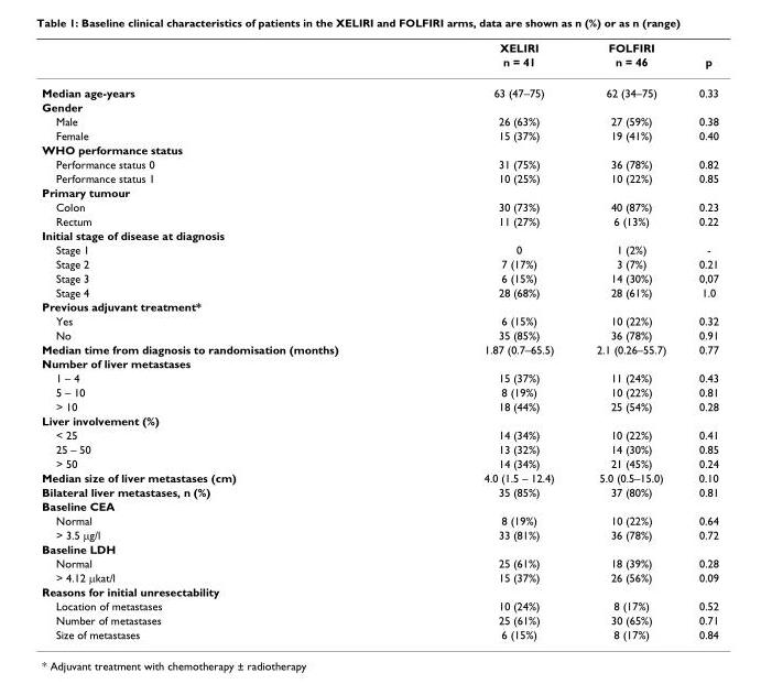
<table><thead><tr><td rowspan="2"></td><td rowspan="2">XELIRI n = 41</td><td rowspan="2">FOLFIRI n = 46</td><td rowspan="2">p</td></tr><tr></tr></thead><tbody><tr><td>Median age-years</td><td>63 (47–75)</td><td>62 (34–75)</td><td>0.33</td></tr><tr><td colspan="4">Gender</td></tr><tr><td>Male</td><td>26 (63%)</td><td>27 (59%)</td><td>0.38</td></tr><tr><td>Female</td><td>15 (37%)</td><td>19 (41%)</td><td>0.40</td></tr><tr><td colspan="4">WHO performance status</td></tr><tr><td>Performance status 0</td><td>31 (75%)</td><td>36 (78%)</td><td>0.82</td></tr><tr><td>Performance status 1</td><td>10 (25%)</td><td>10 (22%)</td><td>0.85</td></tr><tr><td colspan="4">Primary tumour</td></tr><tr><td>Colon</td><td>30 (73%)</td><td>40 (87%)</td><td>0.23</td></tr><tr><td>Rectum</td><td>11 (27%)</td><td>6 (13%)</td><td>0.22</td></tr><tr><td colspan="4">Initial stage of disease at diagnosis</td></tr><tr><td>Stage 1</td><td>0</td><td>1 (2%)</td><td>-</td></tr><tr><td>Stage 2</td><td>7 (17%)</td><td>3 (7%)</td><td>0.21</td></tr><tr><td>Stage 3</td><td>6 (15%)</td><td>14 (30%)</td><td>0,07</td></tr><tr><td>Stage 4</td><td>28 (68%)</td><td>28 (61%)</td><td>1.0</td></tr><tr><td colspan="4">Previous adjuvant treatment*</td></tr><tr><td>Yes</td><td>6 (15%)</td><td>10 (22%)</td><td>0.32</td></tr><tr><td>No</td><td>35 (85%)</td><td>36 (78%)</td><td>0.91</td></tr><tr><td>Median time from diagnosis to randomisation (months)</td><td>1.87 (0.7–65.5)</td><td>2.1 (0.26–55.7)</td><td>0.77</td></tr><tr><td colspan="4">Number of liver metastases</td></tr><tr><td>1 – 4</td><td>15 (37%)</td><td>11 (24%)</td><td>0.43</td></tr><tr><td>5 – 10</td><td>8 (19%)</td><td>10 (22%)</td><td>0.81</td></tr><tr><td>&gt; 10</td><td>18 (44%)</td><td>25 (54%)</td><td>0.28</td></tr><tr><td colspan="4">Liver involvement (%)</td></tr><tr><td>&lt; 25</td><td>14 (34%)</td><td>10 (22%)</td><td>0.41</td></tr><tr><td>25 – 50</td><td>13 (32%)</td><td>14 (30%)</td><td>0.85</td></tr><tr><td>&gt; 50</td><td>14 (34%)</td><td>21 (45%)</td><td>0.24</td></tr><tr><td>Median size of liver metastases (cm)</td><td>4.0 (1.5 – 12.4)</td><td>5.0 (0.5–15.0)</td><td>0.10</td></tr><tr><td>Bilateral liver metastases, n (%)</td><td>35 (85%)</td><td>37 (80%)</td><td>0.81</td></tr><tr><td colspan="4">Baseline CEA</td></tr><tr><td>Normal</td><td>8 (19%)</td><td>10 (22%)</td><td>0.64</td></tr><tr><td>&gt; 3.5 μg/l</td><td>33 (81%)</td><td>36 (78%)</td><td>0.72</td></tr><tr><td colspan="4">Baseline LDH</td></tr><tr><td>Normal</td><td>25 (61%)</td><td>18 (39%)</td><td>0.28</td></tr><tr><td>&gt; 4.12 μkat/l</td><td>15 (37%)</td><td>26 (56%)</td><td>0.09</td></tr><tr><td colspan="4">Reasons for initial unresectability</td></tr><tr><td>Location of metastases</td><td>10 (24%)</td><td>8 (17%)</td><td>0.52</td></tr><tr><td>Number of metastases</td><td>25 (61%)</td><td>30 (65%)</td><td>0.71</td></tr><tr><td>Size of metastases</td><td>6 (15%)</td><td>8 (17%)</td><td>0.84</td></tr></tbody></table>